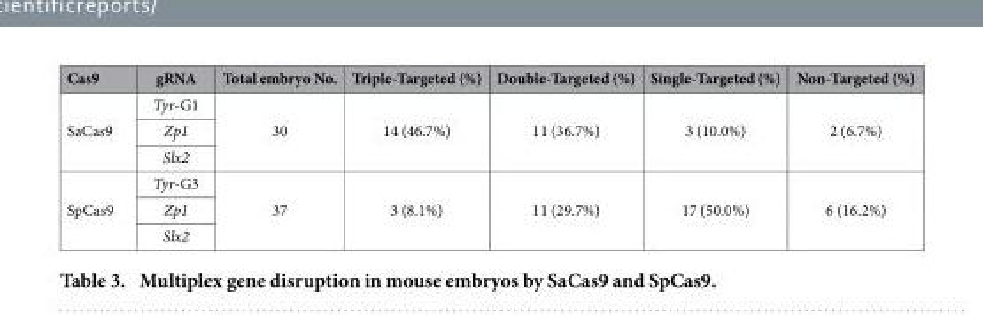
<table><thead><tr><td>Cas9</td><td>gRNA</td><td>Total embryo No.</td><td>Triple-Targeted (%)</td><td>Double-Targeted (%)</td><td>Single-Targeted (%)</td><td>Non-Targeted (%)</td></tr></thead><tbody><tr><td rowspan="3">SaCas9</td><td>Tyr-G1</td><td rowspan="3">30</td><td rowspan="3">14 (46.7%)</td><td rowspan="3">11 (36.7%)</td><td rowspan="3">3 (10.0%)</td><td rowspan="3">2 (6.7%)</td></tr><tr><td>Zp1</td></tr><tr><td>Slx2</td></tr><tr><td rowspan="3">SpCas9</td><td>Tyr-G3</td><td rowspan="3">37</td><td rowspan="3">3 (8.1%)</td><td rowspan="3">11 (29.7%)</td><td rowspan="3">17 (50.0%)</td><td rowspan="3">6 (16.2%)</td></tr><tr><td>Zp1</td></tr><tr><td>Slx2</td></tr></tbody></table>